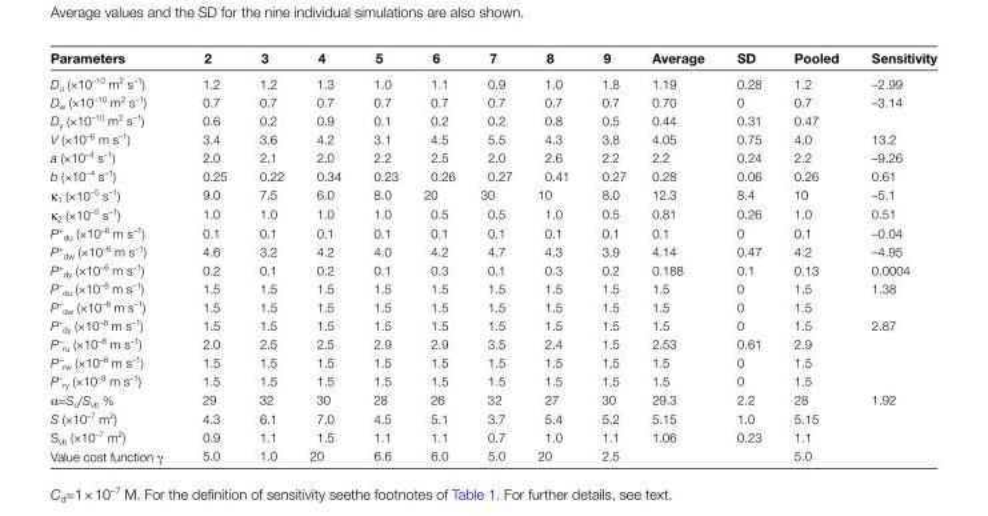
<table><thead><tr><td>Parameters</td><td>2</td><td>3</td><td>4</td><td>5</td><td>6</td><td>7</td><td>8</td><td>9</td><td>Average</td><td>SD</td><td>Pooled</td><td>Sensitivity</td></tr></thead><tbody><tr><td>D<sub>u</sub> (×10<sup>–10</sup> m<sup>2</sup> s<sup>–1</sup>)</td><td>1.2</td><td>1.2</td><td>1.3</td><td>1.0</td><td>1.1</td><td>0.9</td><td>1.0</td><td>1.8</td><td>1.19</td><td>0.28</td><td>1.2</td><td>–2.99</td></tr><tr><td>D<sub>w</sub> (×10<sup>–10</sup> m<sup>2</sup> s<sup>–1</sup>)</td><td>0.7</td><td>0.7</td><td>0.7</td><td>0.7</td><td>0.7</td><td>0.7</td><td>0.7</td><td>0.7</td><td>0.70</td><td>0</td><td>0.7</td><td>–3.14</td></tr><tr><td>D<sub>y</sub> (×10<sup>–10</sup> m<sup>2</sup> s<sup>–1</sup>)</td><td>0.6</td><td>0.2</td><td>0.9</td><td>0.1</td><td>0.2</td><td>0.2</td><td>0.8</td><td>0.5</td><td>0.44</td><td>0.31</td><td>0.47</td><td></td></tr><tr><td>V (×10<sup>–6</sup> m s<sup>–1</sup>)</td><td>3.4</td><td>3.6</td><td>4.2</td><td>3.1</td><td>4.5</td><td>5.5</td><td>4.3</td><td>3.8</td><td>4.05</td><td>0.75</td><td>4.0</td><td>13.2</td></tr><tr><td>a (×10<sup>–4</sup> s<sup>–1</sup>)</td><td>2.0</td><td>2.1</td><td>2.0</td><td>2.2</td><td>2.5</td><td>2.0</td><td>2.6</td><td>2.2</td><td>2.2</td><td>0.24</td><td>2.2</td><td>–9.26</td></tr><tr><td>b (×10<sup>–4</sup> s<sup>–1</sup>)</td><td>0.25</td><td>0.22</td><td>0.34</td><td>0.23</td><td>0.26</td><td>0.27</td><td>0.41</td><td>0.27</td><td>0.28</td><td>0.06</td><td>0.26</td><td>0.61</td></tr><tr><td>κ<sub>1</sub> (×10<sup>–5</sup> s<sup>–1</sup>)</td><td>9.0</td><td>7.5</td><td>6.0</td><td>8.0</td><td>20</td><td>30</td><td>10</td><td>8.0</td><td>12.3</td><td>8.4</td><td>10</td><td>–5.1</td></tr><tr><td>κ<sub>2</sub> (×10<sup>–5</sup> s<sup>–1</sup>)</td><td>1.0</td><td>1.0</td><td>1.0</td><td>1.0</td><td>0.5</td><td>0.5</td><td>1.0</td><td>0.5</td><td>0.81</td><td>0.26</td><td>1.0</td><td>0.51</td></tr><tr><td>P<sup>+</sup> <sub>du</sub> (×10<sup>–6</sup> m s<sup>–1</sup>)</td><td>0.1</td><td>0.1</td><td>0.1</td><td>0.1</td><td>0.1</td><td>0.1</td><td>0.1</td><td>0.1</td><td>0.1</td><td>0</td><td>0.1</td><td>–0.04</td></tr><tr><td>P<sup>+</sup> <sub>dw</sub> (×10<sup>–6</sup> m s<sup>–1</sup>)</td><td>4.6</td><td>3.2</td><td>4.2</td><td>4.0</td><td>4.2</td><td>4.7</td><td>4.3</td><td>3.9</td><td>4.14</td><td>0.47</td><td>4.2</td><td>–4.95</td></tr><tr><td>P<sup>+</sup> <sub>dy</sub> (×10<sup>–6</sup> m s<sup>–1</sup>)</td><td>0.2</td><td>0.1</td><td>0.2</td><td>0.1</td><td>0.3</td><td>0.1</td><td>0.3</td><td>0.2</td><td>0.188</td><td>0.1</td><td>0.13</td><td>0.0004</td></tr><tr><td>P<sup>–</sup> <sub>du</sub> (×10<sup>–8</sup> m s<sup>–1</sup>)</td><td>1.5</td><td>1.5</td><td>1.5</td><td>1.5</td><td>1.5</td><td>1.5</td><td>1.5</td><td>1.5</td><td>1.5</td><td>0</td><td>1.5</td><td>1.38</td></tr><tr><td>P<sup>–</sup> <sub>dw</sub> (×10<sup>–8</sup> m s<sup>–1</sup>)</td><td>1.5</td><td>1.5</td><td>1.5</td><td>1.5</td><td>1.5</td><td>1.5</td><td>1.5</td><td>1.5</td><td>1.5</td><td>0</td><td>1.5</td><td></td></tr><tr><td>P<sup>–</sup> <sub>dy</sub> (×10<sup>–8</sup> m s<sup>–1</sup>)</td><td>1.5</td><td>1.5</td><td>1.5</td><td>1.5</td><td>1.5</td><td>1.5</td><td>1.5</td><td>1.5</td><td>1.5</td><td>0</td><td>1.5</td><td>2.87</td></tr><tr><td>P<sup>–</sup> <sub>ru</sub> (×10<sup>–8</sup> m s<sup>–1</sup>)</td><td>2.0</td><td>2.5</td><td>2.5</td><td>2.9</td><td>2.9</td><td>3.5</td><td>2.4</td><td>1.5</td><td>2.53</td><td>0.61</td><td>2.9</td><td></td></tr><tr><td>P<sup>–</sup> <sub>rw</sub> (×10<sup>–8</sup> m s<sup>–1</sup>)</td><td>1.5</td><td>1.5</td><td>1.5</td><td>1.5</td><td>1.5</td><td>1.5</td><td>1.5</td><td>1.5</td><td>1.5</td><td>0</td><td>1.5</td><td></td></tr><tr><td>P<sup>–</sup> <sub>ry</sub> (×10<sup>–8</sup> m s<sup>–1</sup>)</td><td>1.5</td><td>1.5</td><td>1.5</td><td>1.5</td><td>1.5</td><td>1.5</td><td>1.5</td><td>1.5</td><td>1.5</td><td>0</td><td>1.5</td><td></td></tr><tr><td>α=S<sub>u</sub>/S<sub>vb</sub> %</td><td>29</td><td>32</td><td>30</td><td>28</td><td>26</td><td>32</td><td>27</td><td>30</td><td>29.3</td><td>2.2</td><td>28</td><td>1.92</td></tr><tr><td>S (×10<sup>–7</sup> m<sup>2</sup>)</td><td>4.3</td><td>6.1</td><td>7.0</td><td>4.5</td><td>5.1</td><td>3.7</td><td>5.4</td><td>5.2</td><td>5.15</td><td>1.0</td><td>5.15</td><td></td></tr><tr><td>S<sub>vb</sub> (×10<sup>–7</sup> m<sup>2</sup>)</td><td>0.9</td><td>1.1</td><td>1.5</td><td>1.1</td><td>1.1</td><td>0.7</td><td>1.0</td><td>1.1</td><td>1.06</td><td>0.23</td><td>1.1</td><td></td></tr><tr><td>Value cost function γ</td><td>5.0</td><td>1.0</td><td>20</td><td>6.6</td><td>6.0</td><td>5.0</td><td>20</td><td>2.5</td><td></td><td></td><td>5.0</td><td></td></tr></tbody></table>